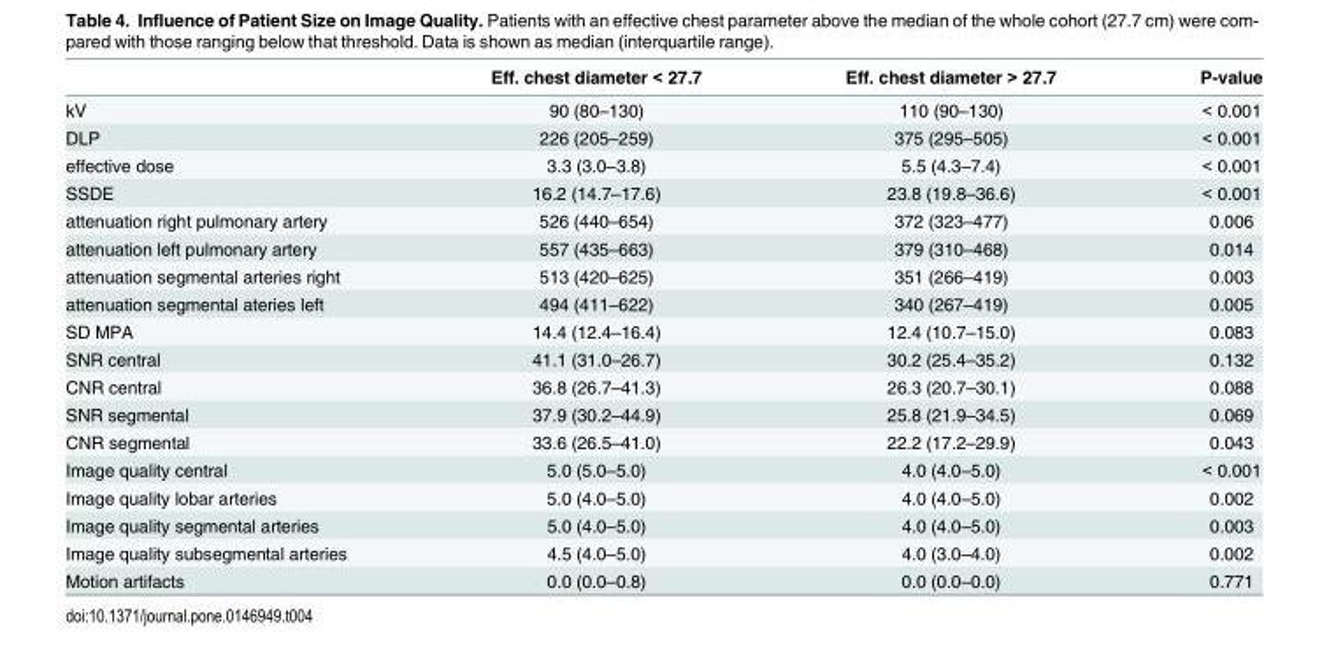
<table><thead><tr><td></td><td>Eff. chest diameter &lt; 27.7</td><td>Eff. chest diameter &gt; 27.7</td><td>P-value</td></tr></thead><tbody><tr><td>kV</td><td>90 (80–130)</td><td>110 (90–130)</td><td>&lt; 0.001</td></tr><tr><td>DLP</td><td>226 (205–259)</td><td>375 (295–505)</td><td>&lt; 0.001</td></tr><tr><td>effective dose</td><td>3.3 (3.0–3.8)</td><td>5.5 (4.3–7.4)</td><td>&lt; 0.001</td></tr><tr><td>SSDE</td><td>16.2 (14.7–17.6)</td><td>23.8 (19.8–36.6)</td><td>&lt; 0.001</td></tr><tr><td>attenuation right pulmonary artery</td><td>526 (440–654)</td><td>372 (323–477)</td><td>0.006</td></tr><tr><td>attenuation left pulmonary artery</td><td>557 (435–663)</td><td>379 (310–468)</td><td>0.014</td></tr><tr><td>attenuation segmental arteries right</td><td>513 (420–625)</td><td>351 (266–419)</td><td>0.003</td></tr><tr><td>attenuation segmental ateries left</td><td>494 (411–622)</td><td>340 (267–419)</td><td>0.005</td></tr><tr><td>SD MPA</td><td>14.4 (12.4–16.4)</td><td>12.4 (10.7–15.0)</td><td>0.083</td></tr><tr><td>SNR central</td><td>41.1 (31.0–26.7)</td><td>30.2 (25.4–35.2)</td><td>0.132</td></tr><tr><td>CNR central</td><td>36.8 (26.7–41.3)</td><td>26.3 (20.7–30.1)</td><td>0.088</td></tr><tr><td>SNR segmental</td><td>37.9 (30.2–44.9)</td><td>25.8 (21.9–34.5)</td><td>0.069</td></tr><tr><td>CNR segmental</td><td>33.6 (26.5–41.0)</td><td>22.2 (17.2–29.9)</td><td>0.043</td></tr><tr><td>Image quality central</td><td>5.0 (5.0–5.0)</td><td>4.0 (4.0–5.0)</td><td>&lt; 0.001</td></tr><tr><td>Image quality lobar arteries</td><td>5.0 (4.0–5.0)</td><td>4.0 (4.0–5.0)</td><td>0.002</td></tr><tr><td>Image quality segmental arteries</td><td>5.0 (4.0–5.0)</td><td>4.0 (4.0–5.0)</td><td>0.003</td></tr><tr><td>Image quality subsegmental arteries</td><td>4.5 (4.0–5.0)</td><td>4.0 (3.0–4.0)</td><td>0.002</td></tr><tr><td>Motion artifacts</td><td>0.0 (0.0–0.8)</td><td>0.0 (0.0–0.0)</td><td>0.771</td></tr></tbody></table>